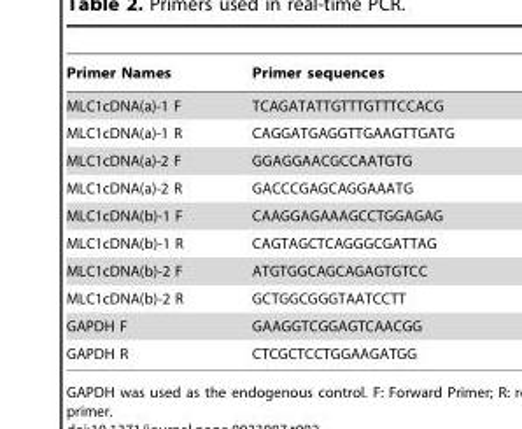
<table><thead><tr><td>Primer Names</td><td>Primer sequences</td></tr></thead><tbody><tr><td>MLC1cDNA(a)-1 F</td><td>TCAGATATTGTTTGTTTCCACG</td></tr><tr><td>MLC1cDNA(a)-1 R</td><td>CAGGATGAGGTTGAAGTTGATG</td></tr><tr><td>MLC1cDNA(a)-2 F</td><td>GGAGGAACGCCAATGTG</td></tr><tr><td>MLC1cDNA(a)-2 R</td><td>GACCCGAGCAGGAAATG</td></tr><tr><td>MLC1cDNA(b)-1 F</td><td>CAAGGAGAAAGCCTGGAGAG</td></tr><tr><td>MLC1cDNA(b)-1 R</td><td>CAGTAGCTCAGGGCGATTAG</td></tr><tr><td>MLC1cDNA(b)-2 F</td><td>ATGTGGCAGCAGAGTGTCC</td></tr><tr><td>MLC1cDNA(b)-2 R</td><td>GCTGGCGGGTAATCCTT</td></tr><tr><td>GAPDH F</td><td>GAAGGTCGGAGTCAACGG</td></tr><tr><td>GAPDH R</td><td>CTCGCTCCTGGAAGATGG</td></tr></tbody></table>